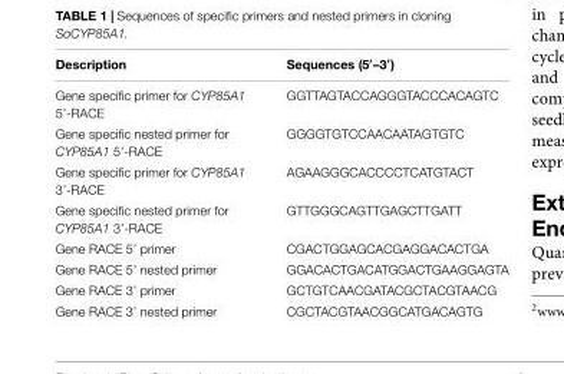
<table><thead><tr><td>Description</td><td>Sequences (5′–3′)</td></tr></thead><tbody><tr><td>Gene specific primer for CYP85A1 5’-RACE</td><td>GGTTAGTACCAGGGTACCCACAGTC</td></tr><tr><td>Gene specific nested primer for CYP85A1 5’-RACE</td><td>GGGGTGTCCAACAATAGTGTC</td></tr><tr><td>Gene specific primer for CYP85A1 3’-RACE</td><td>AGAAGGGCACCCCTCATGTACT</td></tr><tr><td>Gene specific nested primer for CYP85A1 3’-RACE</td><td>GTTGGGCAGTTGAGCTTGATT</td></tr><tr><td>Gene RACE 5’ primer</td><td>CGACTGGAGCACGAGGACACTGA</td></tr><tr><td>Gene RACE 5’ nested primer</td><td>GGACACTGACATGGACTGAAGGAGTA</td></tr><tr><td>Gene RACE 3’ primer</td><td>GCTGTCAACGATACGCTACGTAACG</td></tr><tr><td>Gene RACE 3’ nested primer</td><td>CGCTACGTAACGGCATGACAGTG</td></tr></tbody></table>